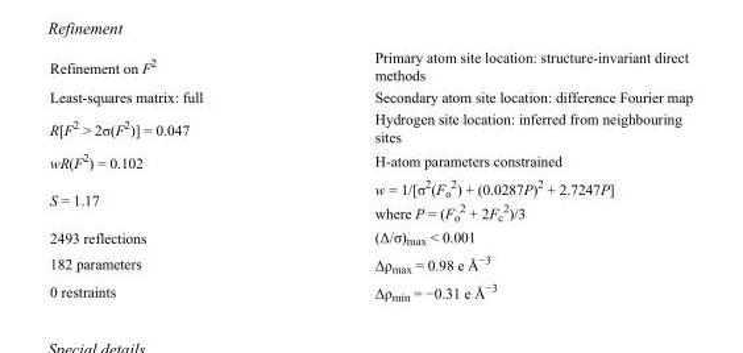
<table><tbody><tr><td>Refinement on F<sup>2</sup></td><td>Primary atom site location: structure-invariant direct methods</td></tr><tr><td>Least-squares matrix: full</td><td>Secondary atom site location: difference Fourier map</td></tr><tr><td>R[F<sup>2</sup> &gt; 2σ(F<sup>2</sup>)] = 0.047</td><td>Hydrogen site location: inferred from neighbouring sites</td></tr><tr><td>wR(F<sup>2</sup>) = 0.102</td><td>H-atom parameters constrained</td></tr><tr><td>S = 1.17</td><td>w = 1/[σ<sup>2</sup>(F<sub>o</sub> <sup>2</sup>) + (0.0287P)<sup>2</sup> + 2.7247P] where P = (F<sub>o</sub> <sup>2</sup> + 2F<sub>c</sub> <sup>2</sup>)/3</td></tr><tr><td>2493 reflections</td><td>(Δ/σ)<sub>max</sub> &lt; 0.001</td></tr><tr><td>182 parameters</td><td>Δρ<sub>max</sub> = 0.98 e Å<sup>−3</sup></td></tr><tr><td>0 restraints</td><td>Δρ<sub>min</sub> = −0.31 e Å<sup>−3</sup></td></tr></tbody></table>